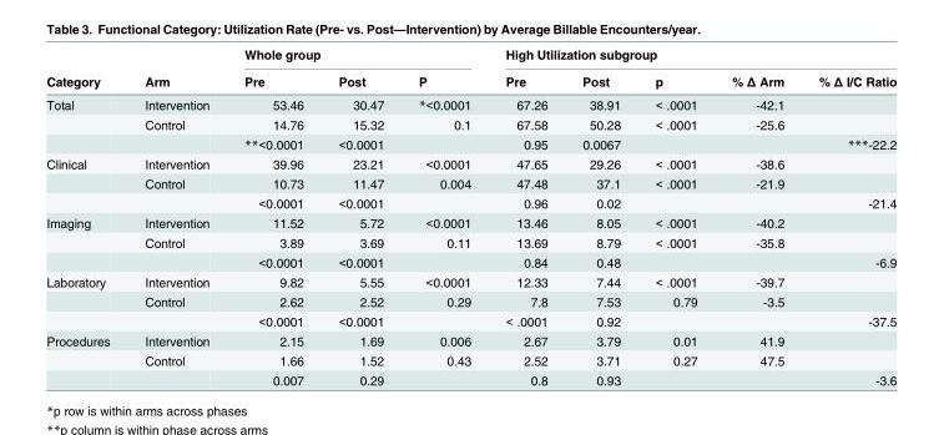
<table><thead><tr><td rowspan="2">Category</td><td rowspan="2">Arm</td><td colspan="3">Whole group</td><td colspan="5">High Utilization subgroup</td></tr><tr><td>Pre</td><td>Post</td><td>P</td><td>Pre</td><td>Post</td><td>p</td><td>% Δ Arm</td><td>% Δ I/C Ratio</td></tr></thead><tbody><tr><td rowspan="3">Total</td><td>Intervention</td><td>53.46</td><td>30.47</td><td>*&lt;0.0001</td><td>67.26</td><td>38.91</td><td>&lt; .0001</td><td>-42.1</td><td></td></tr><tr><td>Control</td><td>14.76</td><td>15.32</td><td>0.1</td><td>67.58</td><td>50.28</td><td>&lt; .0001</td><td>-25.6</td><td></td></tr><tr><td></td><td>**&lt;0.0001</td><td>&lt;0.0001</td><td></td><td>0.95</td><td>0.0067</td><td></td><td></td><td>***-22.2</td></tr><tr><td rowspan="3">Clinical</td><td>Intervention</td><td>39.96</td><td>23.21</td><td>&lt;0.0001</td><td>47.65</td><td>29.26</td><td>&lt; .0001</td><td>-38.6</td><td></td></tr><tr><td>Control</td><td>10.73</td><td>11.47</td><td>0.004</td><td>47.48</td><td>37.1</td><td>&lt; .0001</td><td>-21.9</td><td></td></tr><tr><td></td><td>&lt;0.0001</td><td>&lt;0.0001</td><td></td><td>0.96</td><td>0.02</td><td></td><td></td><td>-21.4</td></tr><tr><td rowspan="3">Imaging</td><td>Intervention</td><td>11.52</td><td>5.72</td><td>&lt;0.0001</td><td>13.46</td><td>8.05</td><td>&lt; .0001</td><td>-40.2</td><td></td></tr><tr><td>Control</td><td>3.89</td><td>3.69</td><td>0.11</td><td>13.69</td><td>8.79</td><td>&lt; .0001</td><td>-35.8</td><td></td></tr><tr><td></td><td>&lt;0.0001</td><td>&lt;0.0001</td><td></td><td>0.84</td><td>0.48</td><td></td><td></td><td>-6.9</td></tr><tr><td rowspan="3">Laboratory</td><td>Intervention</td><td>9.82</td><td>5.55</td><td>&lt;0.0001</td><td>12.33</td><td>7.44</td><td>&lt; .0001</td><td>-39.7</td><td></td></tr><tr><td>Control</td><td>2.62</td><td>2.52</td><td>0.29</td><td>7.8</td><td>7.53</td><td>0.79</td><td>-3.5</td><td></td></tr><tr><td></td><td>&lt;0.0001</td><td>&lt;0.0001</td><td></td><td>&lt; .0001</td><td>0.92</td><td></td><td></td><td>-37.5</td></tr><tr><td rowspan="3">Procedures</td><td>Intervention</td><td>2.15</td><td>1.69</td><td>0.006</td><td>2.67</td><td>3.79</td><td>0.01</td><td>41.9</td><td></td></tr><tr><td>Control</td><td>1.66</td><td>1.52</td><td>0.43</td><td>2.52</td><td>3.71</td><td>0.27</td><td>47.5</td><td></td></tr><tr><td></td><td>0.007</td><td>0.29</td><td></td><td>0.8</td><td>0.93</td><td></td><td></td><td>-3.6</td></tr></tbody></table>